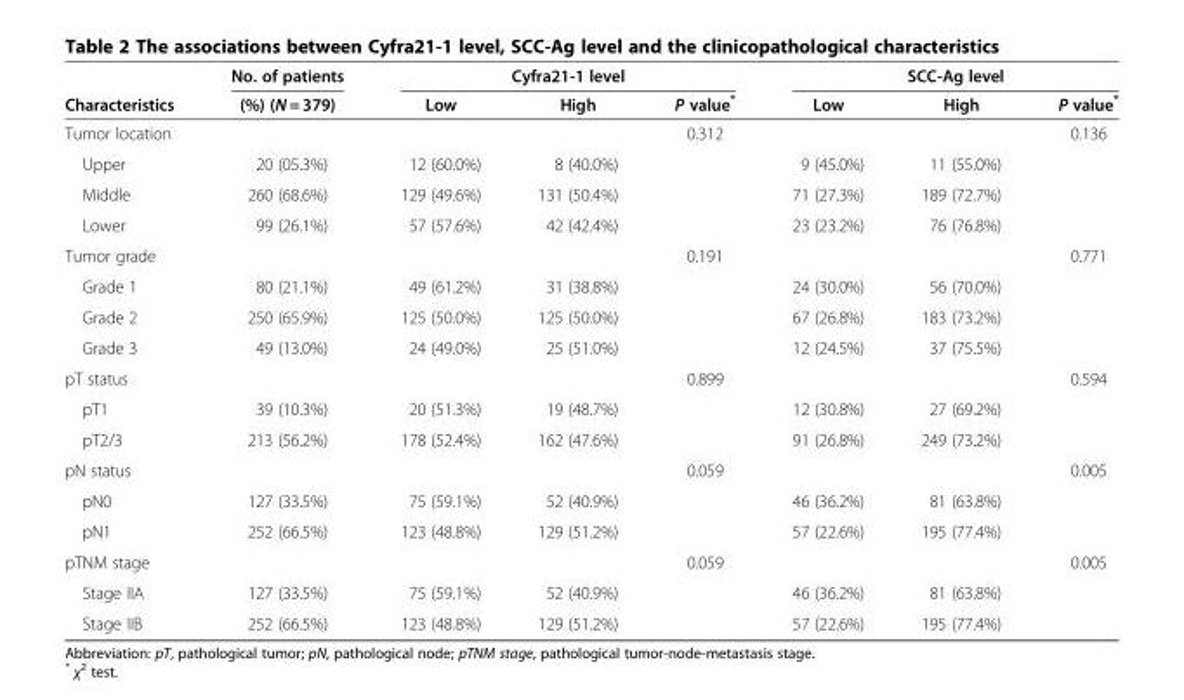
<table><thead><tr><td rowspan="2">Characteristics</td><td rowspan="2">No. of patients (%) (N = 379)</td><td colspan="3">Cyfra21-1 level</td><td colspan="3">SCC-Ag level</td></tr><tr><td>Low</td><td>High</td><td>P value*</td><td>Low</td><td>High</td><td>P value*</td></tr></thead><tbody><tr><td>Tumor location</td><td></td><td></td><td></td><td>0.312</td><td></td><td></td><td>0.136</td></tr><tr><td>Upper</td><td>20 (05.3%)</td><td>12 (60.0%)</td><td>8 (40.0%)</td><td></td><td>9 (45.0%)</td><td>11 (55.0%)</td><td></td></tr><tr><td>Middle</td><td>260 (68.6%)</td><td>129 (49.6%)</td><td>131 (50.4%)</td><td></td><td>71 (27.3%)</td><td>189 (72.7%)</td><td></td></tr><tr><td>Lower</td><td>99 (26.1%)</td><td>57 (57.6%)</td><td>42 (42.4%)</td><td></td><td>23 (23.2%)</td><td>76 (76.8%)</td><td></td></tr><tr><td>Tumor grade</td><td></td><td></td><td></td><td>0.191</td><td></td><td></td><td>0.771</td></tr><tr><td>Grade 1</td><td>80 (21.1%)</td><td>49 (61.2%)</td><td>31 (38.8%)</td><td></td><td>24 (30.0%)</td><td>56 (70.0%)</td><td></td></tr><tr><td>Grade 2</td><td>250 (65.9%)</td><td>125 (50.0%)</td><td>125 (50.0%)</td><td></td><td>67 (26.8%)</td><td>183 (73.2%)</td><td></td></tr><tr><td>Grade 3</td><td>49 (13.0%)</td><td>24 (49.0%)</td><td>25 (51.0%)</td><td></td><td>12 (24.5%)</td><td>37 (75.5%)</td><td></td></tr><tr><td>pT status</td><td></td><td></td><td></td><td>0.899</td><td></td><td></td><td>0.594</td></tr><tr><td>pT1</td><td>39 (10.3%)</td><td>20 (51.3%)</td><td>19 (48.7%)</td><td></td><td>12 (30.8%)</td><td>27 (69.2%)</td><td></td></tr><tr><td>pT2/3</td><td>213 (56.2%)</td><td>178 (52.4%)</td><td>162 (47.6%)</td><td></td><td>91 (26.8%)</td><td>249 (73.2%)</td><td></td></tr><tr><td>pN status</td><td></td><td></td><td></td><td>0.059</td><td></td><td></td><td>0.005</td></tr><tr><td>pN0</td><td>127 (33.5%)</td><td>75 (59.1%)</td><td>52 (40.9%)</td><td></td><td>46 (36.2%)</td><td>81 (63.8%)</td><td></td></tr><tr><td>pN1</td><td>252 (66.5%)</td><td>123 (48.8%)</td><td>129 (51.2%)</td><td></td><td>57 (22.6%)</td><td>195 (77.4%)</td><td></td></tr><tr><td>pTNM stage</td><td></td><td></td><td></td><td>0.059</td><td></td><td></td><td>0.005</td></tr><tr><td>Stage IIA</td><td>127 (33.5%)</td><td>75 (59.1%)</td><td>52 (40.9%)</td><td></td><td>46 (36.2%)</td><td>81 (63.8%)</td><td></td></tr><tr><td>Stage IIB</td><td>252 (66.5%)</td><td>123 (48.8%)</td><td>129 (51.2%)</td><td></td><td>57 (22.6%)</td><td>195 (77.4%)</td><td></td></tr></tbody></table>